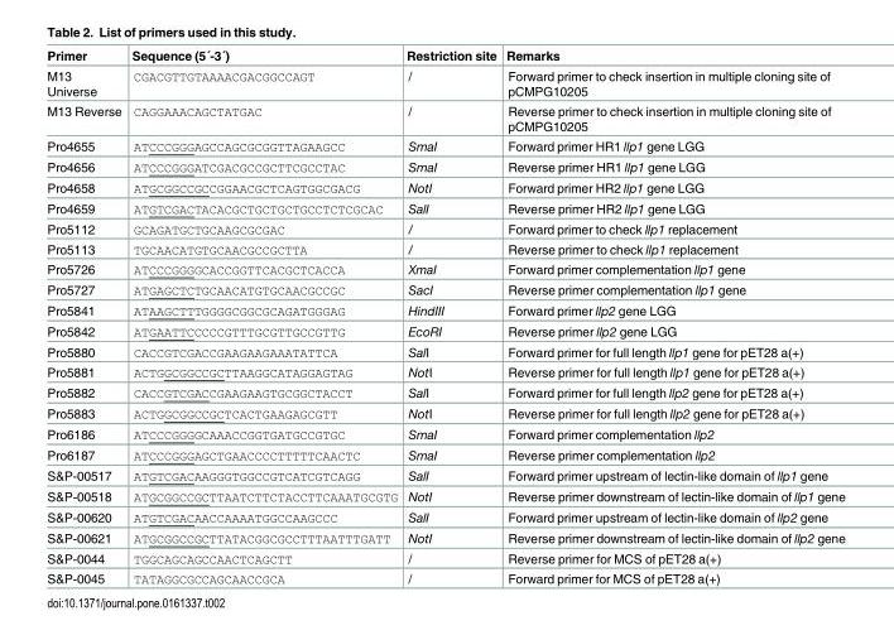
<table><thead><tr><td>Primer</td><td>Sequence (5´-3´)</td><td>Restriction site</td><td>Remarks</td></tr></thead><tbody><tr><td>M13 Universe</td><td>CGACGTTGTAAAACGACGGCCAGT</td><td>/</td><td>Forward primer to check insertion in multiple cloning site of pCMPG10205</td></tr><tr><td>M13 Reverse</td><td>CAGGAAACAGCTATGAC</td><td>/</td><td>Reverse primer to check insertion in multiple cloning site of pCMPG10205</td></tr><tr><td>Pro4655</td><td>ATCCCGGGAGCCAGCGCGGTTAGAAGCC</td><td>SmaI</td><td>Forward primer HR1 llp1 gene LGG</td></tr><tr><td>Pro4656</td><td>ATCCCGGGATCGACGCCGCTTCGCCTAC</td><td>SmaI</td><td>Reverse primer HR1 llp1 gene LGG</td></tr><tr><td>Pro4658</td><td>ATGCGGCCGCCGGAACGCTCAGTGGCGACG</td><td>NotI</td><td>Forward primer HR2 llp1 gene LGG</td></tr><tr><td>Pro4659</td><td>ATGTCGACTACACGCTGCTGCTGCCTCTCGCAC</td><td>SalI</td><td>Reverse primer HR2 llp1 gene LGG</td></tr><tr><td>Pro5112</td><td>GCAGATGCTGCAAGCGCGAC</td><td>/</td><td>Forward primer to check llp1 replacement</td></tr><tr><td>Pro5113</td><td>TGCAACATGTGCAACGCCGCTTA</td><td>/</td><td>Reverse primer to check llp1 replacement</td></tr><tr><td>Pro5726</td><td>ATCCCGGGGCACCGGTTCACGCTCACCA</td><td>XmaI</td><td>Forward primer complementation llp1 gene</td></tr><tr><td>Pro5727</td><td>ATGAGCTCTGCAACATGTGCAACGCCGC</td><td>SacI</td><td>Reverse primer complementation llp1 gene</td></tr><tr><td>Pro5841</td><td>ATAAGCTTTGGGGCGGCGCAGATGGGAG</td><td>HindIII</td><td>Forward primer llp2 gene LGG</td></tr><tr><td>Pro5842</td><td>ATGAATTCCCCCGTTTGCGTTGCCGTTG</td><td>EcoRI</td><td>Reverse primer llp2 gene LGG</td></tr><tr><td>Pro5880</td><td>CACCGTCGACCGAAGAAGAAATATTCA</td><td>SalI</td><td>Forward primer for full length llp1 gene for pET28 a(+)</td></tr><tr><td>Pro5881</td><td>ACTGGCGGCCGCTTAAGGCATAGGAGTAG</td><td>NotI</td><td>Reverse primer for full length llp1 gene for pET28 a(+)</td></tr><tr><td>Pro5882</td><td>CACCGTCGACCGAAGAAGTGCGGCTACCT</td><td>SalI</td><td>Forward primer for full length llp2 gene for pET28 a(+)</td></tr><tr><td>Pro5883</td><td>ACTGGCGGCCGCTCACTGAAGAGCGTT</td><td>NotI</td><td>Reverse primer for full length llp2 gene for pET28 a(+)</td></tr><tr><td>Pro6186</td><td>ATCCCGGGGCAAACCGGTGATGCCGTGC</td><td>SmaI</td><td>Forward primer complementation llp2</td></tr><tr><td>Pro6187</td><td>ATCCCGGGAGCTGAACCCCTTTTTCAACTC</td><td>SmaI</td><td>Reverse primer complementation llp2</td></tr><tr><td>S&amp;P-00517</td><td>ATGTCGACAAGGGTGGCCGTCATCGTCAGG</td><td>SalI</td><td>Forward primer upstream of lectin-like domain of llp1 gene</td></tr><tr><td>S&amp;P-00518</td><td>ATGCGGCCGCTTAATCTTCTACCTTCAAATGCGTG</td><td>NotI</td><td>Reverse primer downstream of lectin-like domain of llp1 gene</td></tr><tr><td>S&amp;P-00620</td><td>ATGTCGACAACCAAAATGGCCAAGCCC</td><td>SalI</td><td>Forward primer upstream of lectin-like domain of llp2 gene</td></tr><tr><td>S&amp;P-00621</td><td>ATGCGGCCGCTTATACGGCGCCTTTAATTTGATT</td><td>NotI</td><td>Reverse primer downstream of lectin-like domain of llp2 gene</td></tr><tr><td>S&amp;P-0044</td><td>TGGCAGCAGCCAACTCAGCTT</td><td>/</td><td>Reverse primer for MCS of pET28 a(+)</td></tr><tr><td>S&amp;P-0045</td><td>TATAGGCGCCAGCAACCGCA</td><td>/</td><td>Forward primer for MCS of pET28 a(+)</td></tr></tbody></table>